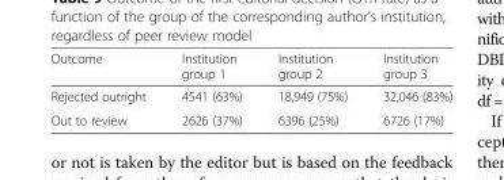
<table><thead><tr><td>Outcome</td><td>Institution group 1</td><td>Institution group 2</td><td>Institution group 3</td></tr></thead><tbody><tr><td>Rejected outright</td><td>4541 (63%)</td><td>18,949 (75%)</td><td>32,046 (83%)</td></tr><tr><td>Out to review</td><td>2626 (37%)</td><td>6396 (25%)</td><td>6726 (17%)</td></tr></tbody></table>